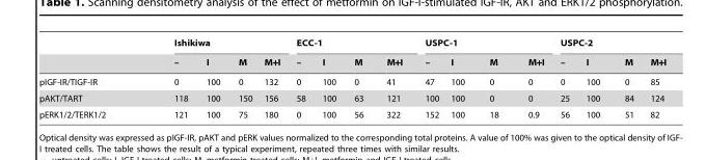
<table><thead><tr><td rowspan="2"></td><td colspan="4">Ishikiwa</td><td colspan="4">ECC-1</td><td colspan="4">USPC-1</td><td colspan="4">USPC-2</td></tr><tr><td>–</td><td>I</td><td>M</td><td>M+I</td><td>–</td><td>I</td><td>M</td><td>M+I</td><td>–</td><td>I</td><td>M</td><td>M+I</td><td>–</td><td>I</td><td>M</td><td>M+I</td></tr></thead><tbody><tr><td>pIGF-IR/TIGF-IR</td><td>0</td><td>100</td><td>0</td><td>132</td><td>0</td><td>100</td><td>0</td><td>41</td><td>47</td><td>100</td><td>0</td><td>0</td><td>0</td><td>100</td><td>0</td><td>85</td></tr><tr><td>pAKT/TART</td><td>118</td><td>100</td><td>150</td><td>156</td><td>58</td><td>100</td><td>63</td><td>121</td><td>100</td><td>100</td><td>0</td><td>0</td><td>25</td><td>100</td><td>84</td><td>124</td></tr><tr><td>pERK1/2/TERK1/2</td><td>121</td><td>100</td><td>75</td><td>180</td><td>0</td><td>100</td><td>56</td><td>322</td><td>152</td><td>100</td><td>18</td><td>0.9</td><td>56</td><td>100</td><td>51</td><td>82</td></tr></tbody></table>